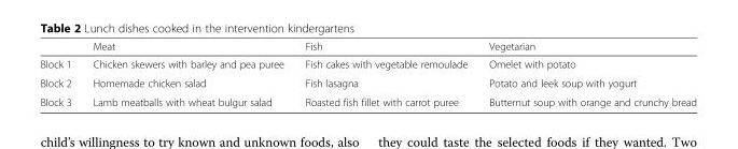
<table><thead><tr><td></td><td>Meat</td><td>Fish</td><td>Vegetarian</td></tr></thead><tbody><tr><td>Block 1</td><td>Chicken skewers with barley and pea puree</td><td>Fish cakes with vegetable remoulade</td><td>Omelet with potato</td></tr><tr><td>Block 2</td><td>Homemade chicken salad</td><td>Fish lasagna</td><td>Potato and leek soup with yogurt</td></tr><tr><td>Block 3</td><td>Lamb meatballs with wheat bulgur salad</td><td>Roasted fish fillet with carrot puree</td><td>Butternut soup with orange and crunchy bread</td></tr></tbody></table>